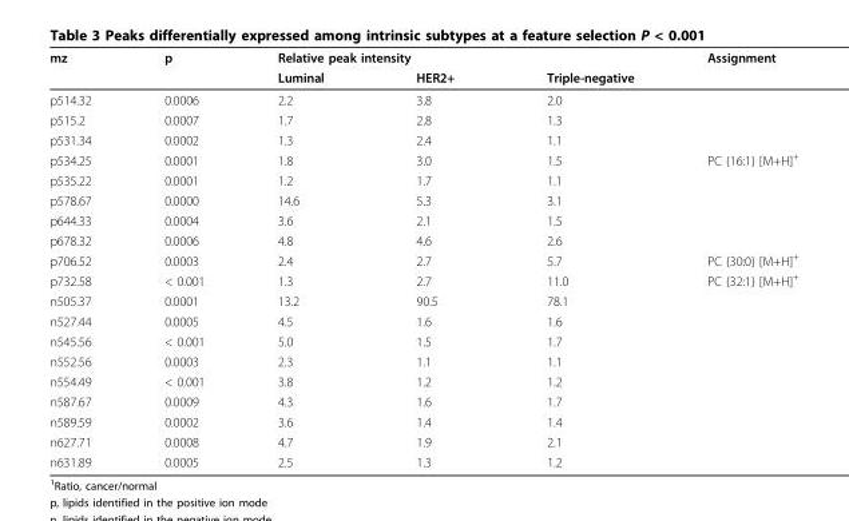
<table><thead><tr><td rowspan="2">mz</td><td rowspan="2">p</td><td colspan="2">Relative peak intensity</td><td rowspan="2">Triple-negative</td><td rowspan="2">Assignment</td></tr><tr><td>Luminal</td><td>HER2+</td></tr></thead><tbody><tr><td>p514.32</td><td>0.0006</td><td>2.2</td><td>3.8</td><td>2.0</td><td></td></tr><tr><td>p515.2</td><td>0.0007</td><td>1.7</td><td>2.8</td><td>1.3</td><td></td></tr><tr><td>p531.34</td><td>0.0002</td><td>1.3</td><td>2.4</td><td>1.1</td><td></td></tr><tr><td>p534.25</td><td>0.0001</td><td>1.8</td><td>3.0</td><td>1.5</td><td>PC {16:1} [M+H]<sup>+</sup></td></tr><tr><td>p535.22</td><td>0.0001</td><td>1.2</td><td>1.7</td><td>1.1</td><td></td></tr><tr><td>p578.67</td><td>0.0000</td><td>14.6</td><td>5.3</td><td>3.1</td><td></td></tr><tr><td>p644.33</td><td>0.0004</td><td>3.6</td><td>2.1</td><td>1.5</td><td></td></tr><tr><td>p678.32</td><td>0.0006</td><td>4.8</td><td>4.6</td><td>2.6</td><td></td></tr><tr><td>p706.52</td><td>0.0003</td><td>2.4</td><td>2.7</td><td>5.7</td><td>PC {30:0} [M+H]<sup>+</sup></td></tr><tr><td>p732.58</td><td>&lt; 0.001</td><td>1.3</td><td>2.7</td><td>11.0</td><td>PC {32:1} [M+H]<sup>+</sup></td></tr><tr><td>n505.37</td><td>0.0001</td><td>13.2</td><td>90.5</td><td>78.1</td><td></td></tr><tr><td>n527.44</td><td>0.0005</td><td>4.5</td><td>1.6</td><td>1.6</td><td></td></tr><tr><td>n545.56</td><td>&lt; 0.001</td><td>5.0</td><td>1.5</td><td>1.7</td><td></td></tr><tr><td>n552.56</td><td>0.0003</td><td>2.3</td><td>1.1</td><td>1.1</td><td></td></tr><tr><td>n554.49</td><td>&lt; 0.001</td><td>3.8</td><td>1.2</td><td>1.2</td><td></td></tr><tr><td>n587.67</td><td>0.0009</td><td>4.3</td><td>1.6</td><td>1.7</td><td></td></tr><tr><td>n589.59</td><td>0.0002</td><td>3.6</td><td>1.4</td><td>1.4</td><td></td></tr><tr><td>n627.71</td><td>0.0008</td><td>4.7</td><td>1.9</td><td>2.1</td><td></td></tr><tr><td>n631.89</td><td>0.0005</td><td>2.5</td><td>1.3</td><td>1.2</td><td></td></tr></tbody></table>